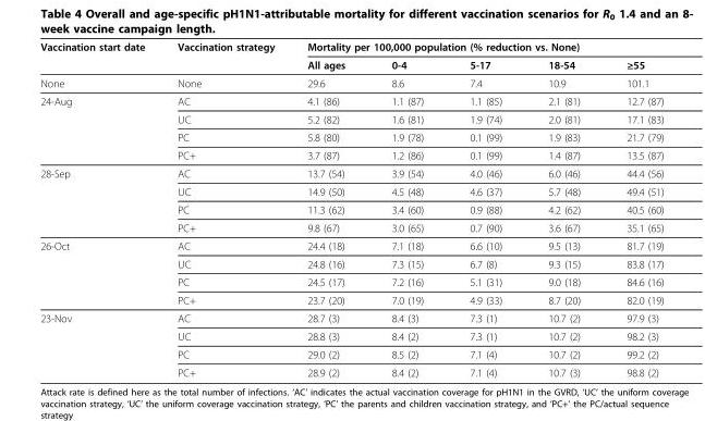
<table><thead><tr><td rowspan="2">Vaccination start date</td><td rowspan="2">Vaccination strategy</td><td colspan="5">Mortality per 100,000 population (% reduction vs. None)</td></tr><tr><td>All ages</td><td>0-4</td><td>5-17</td><td>18-54</td><td>≥55</td></tr></thead><tbody><tr><td>None</td><td>None</td><td>29.6</td><td>8.6</td><td>7.4</td><td>10.9</td><td>101.1</td></tr><tr><td rowspan="4">24-Aug</td><td>AC</td><td>4.1 (86)</td><td>1.1 (87)</td><td>1.1 (85)</td><td>2.1 (81)</td><td>12.7 (87)</td></tr><tr><td>UC</td><td>5.2 (82)</td><td>1.6 (81)</td><td>1.9 (74)</td><td>2.0 (81)</td><td>17.1 (83)</td></tr><tr><td>PC</td><td>5.8 (80)</td><td>1.9 (78)</td><td>0.1 (99)</td><td>1.9 (83)</td><td>21.7 (79)</td></tr><tr><td>PC+</td><td>3.7 (87)</td><td>1.2 (86)</td><td>0.1 (99)</td><td>1.4 (87)</td><td>13.5 (87)</td></tr><tr><td rowspan="4">28-Sep</td><td>AC</td><td>13.7 (54)</td><td>3.9 (54)</td><td>4.0 (46)</td><td>6.0 (46)</td><td>44.4 (56)</td></tr><tr><td>UC</td><td>14.9 (50)</td><td>4.5 (48)</td><td>4.6 (37)</td><td>5.7 (48)</td><td>49.4 (51)</td></tr><tr><td>PC</td><td>11.3 (62)</td><td>3.4 (60)</td><td>0.9 (88)</td><td>4.2 (62)</td><td>40.5 (60)</td></tr><tr><td>PC+</td><td>9.8 (67)</td><td>3.0 (65)</td><td>0.7 (90)</td><td>3.6 (67)</td><td>35.1 (65)</td></tr><tr><td rowspan="4">26-Oct</td><td>AC</td><td>24.4 (18)</td><td>7.1 (18)</td><td>6.6 (10)</td><td>9.5 (13)</td><td>81.7 (19)</td></tr><tr><td>UC</td><td>24.8 (16)</td><td>7.3 (15)</td><td>6.7 (8)</td><td>9.3 (15)</td><td>83.8 (17)</td></tr><tr><td>PC</td><td>24.5 (17)</td><td>7.2 (16)</td><td>5.1 (31)</td><td>9.0 (18)</td><td>84.6 (16)</td></tr><tr><td>PC+</td><td>23.7 (20)</td><td>7.0 (19)</td><td>4.9 (33)</td><td>8.7 (20)</td><td>82.0 (19)</td></tr><tr><td rowspan="4">23-Nov</td><td>AC</td><td>28.7 (3)</td><td>8.4 (3)</td><td>7.3 (1)</td><td>10.7 (2)</td><td>97.9 (3)</td></tr><tr><td>UC</td><td>28.8 (3)</td><td>8.4 (2)</td><td>7.3 (1)</td><td>10.7 (2)</td><td>98.2 (3)</td></tr><tr><td>PC</td><td>29.0 (2)</td><td>8.5 (2)</td><td>7.1 (4)</td><td>10.7 (2)</td><td>99.2 (2)</td></tr><tr><td>PC+</td><td>28.9 (2)</td><td>8.4 (2)</td><td>7.1 (4)</td><td>10.7 (3)</td><td>98.8 (2)</td></tr></tbody></table>